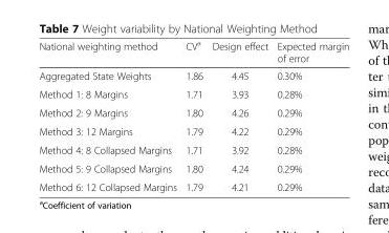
<table><thead><tr><td>National weighting method</td><td>CV<sup>a</sup></td><td>Design effect</td><td>Expected margin of error</td></tr></thead><tbody><tr><td>Aggregated State Weights</td><td>1.86</td><td>4.45</td><td>0.30%</td></tr><tr><td>Method 1: 8 Margins</td><td>1.71</td><td>3.93</td><td>0.28%</td></tr><tr><td>Method 2: 9 Margins</td><td>1.80</td><td>4.26</td><td>0.29%</td></tr><tr><td>Method 3: 12 Margins</td><td>1.79</td><td>4.22</td><td>0.29%</td></tr><tr><td>Method 4: 8 Collapsed Margins</td><td>1.71</td><td>3.92</td><td>0.28%</td></tr><tr><td>Method 5: 9 Collapsed Margins</td><td>1.80</td><td>4.24</td><td>0.29%</td></tr><tr><td>Method 6: 12 Collapsed Margins</td><td>1.79</td><td>4.21</td><td>0.29%</td></tr></tbody></table>